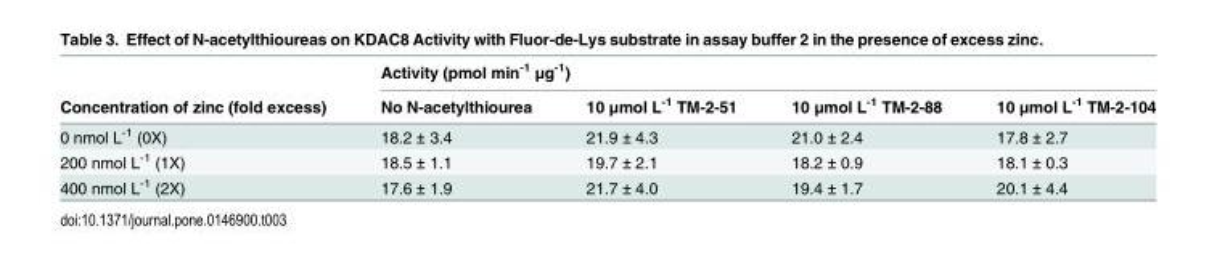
<table><thead><tr><td rowspan="2">Concentration of zinc (fold excess)</td><td colspan="4">Activity (pmol min<sup>-1</sup> μg<sup>-1</sup>)</td></tr><tr><td>No N-acetylthiourea</td><td>10 μmol L<sup>-1</sup> TM-2-51</td><td>10 μmol L<sup>-1</sup> TM-2-88</td><td>10 μmol L<sup>-1</sup> TM-2-104</td></tr></thead><tbody><tr><td>0 nmol L<sup>-1</sup> (0X)</td><td>18.2 ± 3.4</td><td>21.9 ± 4.3</td><td>21.0 ± 2.4</td><td>17.8 ± 2.7</td></tr><tr><td>200 nmol L<sup>-1</sup> (1X)</td><td>18.5 ± 1.1</td><td>19.7 ± 2.1</td><td>18.2 ± 0.9</td><td>18.1 ± 0.3</td></tr><tr><td>400 nmol L<sup>-1</sup> (2X)</td><td>17.6 ± 1.9</td><td>21.7 ± 4.0</td><td>19.4 ± 1.7</td><td>20.1 ± 4.4</td></tr></tbody></table>